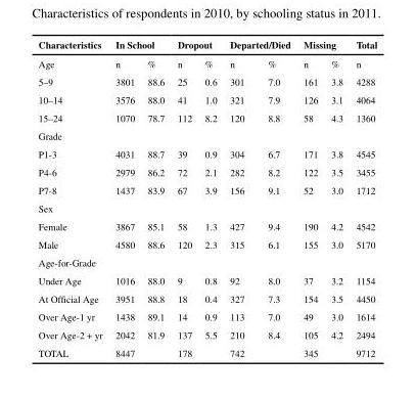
<table><thead><tr><td rowspan="2">Characteristics Age</td><td colspan="2">In School</td><td colspan="2">Dropout</td><td colspan="2">Departed/Died</td><td colspan="2">Missing</td><td rowspan="2">Total n</td></tr><tr><td>n</td><td>%</td><td>n</td><td>%</td><td>n</td><td>%</td><td>n</td><td>%</td></tr></thead><tbody><tr><td>5–9</td><td>3801</td><td>88.6</td><td>25</td><td>0.6</td><td>301</td><td>7.0</td><td>161</td><td>3.8</td><td>4288</td></tr><tr><td>10–14</td><td>3576</td><td>88.0</td><td>41</td><td>1.0</td><td>321</td><td>7.9</td><td>126</td><td>3.1</td><td>4064</td></tr><tr><td>15–24</td><td>1070</td><td>78.7</td><td>112</td><td>8.2</td><td>120</td><td>8.8</td><td>58</td><td>4.3</td><td>1360</td></tr><tr><td colspan="10">Grade</td></tr><tr><td>P1-3</td><td>4031</td><td>88.7</td><td>39</td><td>0.9</td><td>304</td><td>6.7</td><td>171</td><td>3.8</td><td>4545</td></tr><tr><td>P4-6</td><td>2979</td><td>86.2</td><td>72</td><td>2.1</td><td>282</td><td>8.2</td><td>122</td><td>3.5</td><td>3455</td></tr><tr><td>P7-8</td><td>1437</td><td>83.9</td><td>67</td><td>3.9</td><td>156</td><td>9.1</td><td>52</td><td>3.0</td><td>1712</td></tr><tr><td colspan="10">Sex</td></tr><tr><td>Female</td><td>3867</td><td>85.1</td><td>58</td><td>1.3</td><td>427</td><td>9.4</td><td>190</td><td>4.2</td><td>4542</td></tr><tr><td>Male</td><td>4580</td><td>88.6</td><td>120</td><td>2.3</td><td>315</td><td>6.1</td><td>155</td><td>3.0</td><td>5170</td></tr><tr><td colspan="10">Age-for-Grade</td></tr><tr><td>Under Age</td><td>1016</td><td>88.0</td><td>9</td><td>0.8</td><td>92</td><td>8.0</td><td>37</td><td>3.2</td><td>1154</td></tr><tr><td>At Official Age</td><td>3951</td><td>88.8</td><td>18</td><td>0.4</td><td>327</td><td>7.3</td><td>154</td><td>3.5</td><td>4450</td></tr><tr><td>Over Age-1 yr</td><td>1438</td><td>89.1</td><td>14</td><td>0.9</td><td>113</td><td>7.0</td><td>49</td><td>3.0</td><td>1614</td></tr><tr><td>Over Age-2 + yr</td><td>2042</td><td>81.9</td><td>137</td><td>5.5</td><td>210</td><td>8.4</td><td>105</td><td>4.2</td><td>2494</td></tr><tr><td>TOTAL</td><td>8447</td><td></td><td>178</td><td></td><td>742</td><td></td><td>345</td><td></td><td>9712</td></tr></tbody></table>